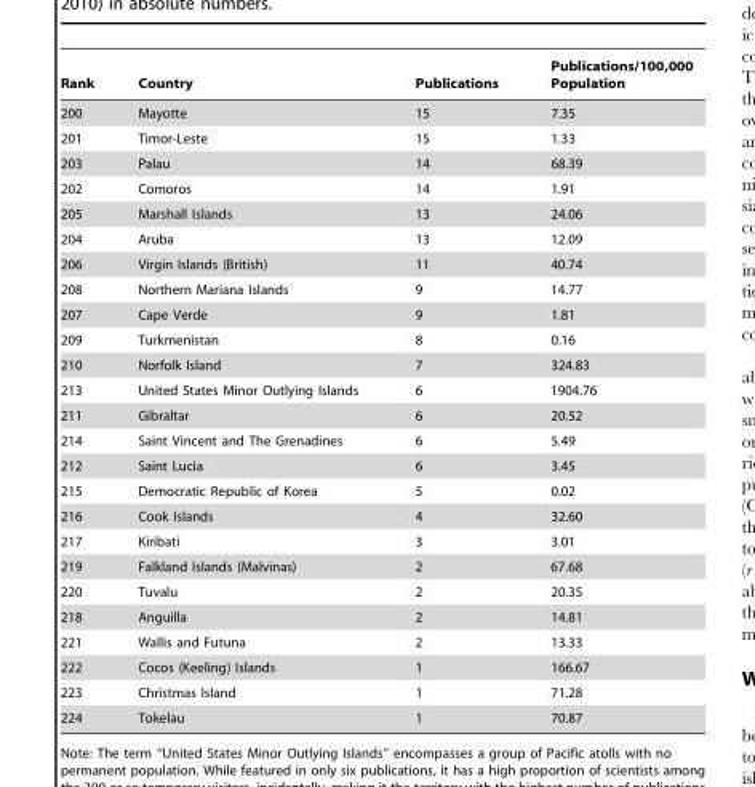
<table><thead><tr><td>Rank</td><td>Country</td><td>Publications</td><td>Publications/100,000 Population</td></tr></thead><tbody><tr><td>200</td><td>Mayotte</td><td>15</td><td>7.35</td></tr><tr><td>201</td><td>Timor-Leste</td><td>15</td><td>1.33</td></tr><tr><td>203</td><td>Palau</td><td>14</td><td>68.39</td></tr><tr><td>202</td><td>Comoros</td><td>14</td><td>1.91</td></tr><tr><td>205</td><td>Marshall Islands</td><td>13</td><td>24.06</td></tr><tr><td>204</td><td>Aruba</td><td>13</td><td>12.09</td></tr><tr><td>206</td><td>Virgin Islands (British)</td><td>11</td><td>40.74</td></tr><tr><td>208</td><td>Northern Mariana Islands</td><td>9</td><td>14.77</td></tr><tr><td>207</td><td>Cape Verde</td><td>9</td><td>1.81</td></tr><tr><td>209</td><td>Turkmenistan</td><td>8</td><td>0.16</td></tr><tr><td>210</td><td>Norfolk Island</td><td>7</td><td>324.83</td></tr><tr><td>213</td><td>United States Minor Outlying Islands</td><td>6</td><td>1904.76</td></tr><tr><td>211</td><td>Gibraltar</td><td>6</td><td>20.52</td></tr><tr><td>214</td><td>Saint Vincent and The Grenadines</td><td>6</td><td>5.49</td></tr><tr><td>212</td><td>Saint Lucia</td><td>6</td><td>3.45</td></tr><tr><td>215</td><td>Democratic Republic of Korea</td><td>5</td><td>0.02</td></tr><tr><td>216</td><td>Cook Islands</td><td>4</td><td>32.60</td></tr><tr><td>217</td><td>Kiribati</td><td>3</td><td>3.01</td></tr><tr><td>219</td><td>Falkland Islands (Malvinas)</td><td>2</td><td>67.68</td></tr><tr><td>220</td><td>Tuvalu</td><td>2</td><td>20.35</td></tr><tr><td>218</td><td>Anguilla</td><td>2</td><td>14.81</td></tr><tr><td>221</td><td>Wallis and Futuna</td><td>2</td><td>13.33</td></tr><tr><td>222</td><td>Cocos (Keeling) Islands</td><td>1</td><td>166.67</td></tr><tr><td>223</td><td>Christmas Island</td><td>1</td><td>71.28</td></tr><tr><td>224</td><td>Tokelau</td><td>1</td><td>70.87</td></tr></tbody></table>